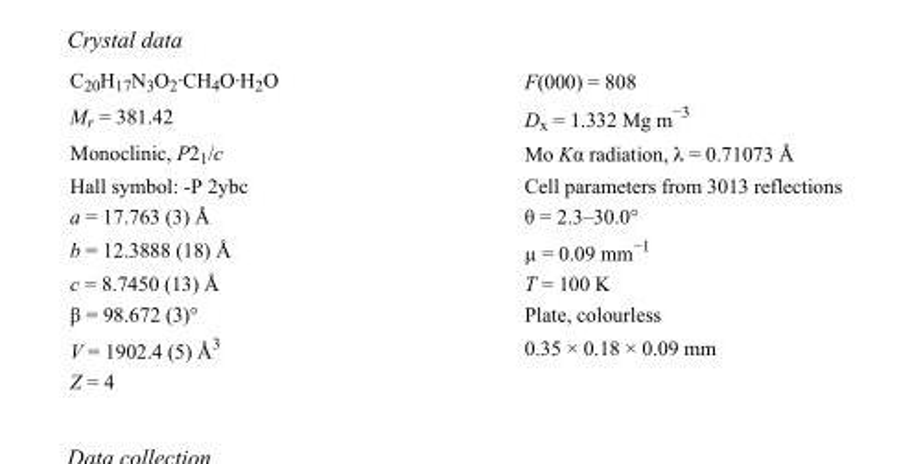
<table><tbody><tr><td>C<sub>20</sub>H<sub>17</sub>N<sub>3</sub>O<sub>2</sub>·CH<sub>4</sub>O·H<sub>2</sub>O</td><td>F(000) = 808</td></tr><tr><td>M<sub>r</sub> = 381.42</td><td>D<sub>x</sub> = 1.332 Mg m<sup>−3</sup></td></tr><tr><td>Monoclinic, P2<sub>1</sub>/c</td><td>Mo Kα radiation, λ = 0.71073 Å</td></tr><tr><td>Hall symbol: -P 2ybc</td><td>Cell parameters from 3013 reflections</td></tr><tr><td>a = 17.763 (3) Å</td><td>θ = 2.3–30.0°</td></tr><tr><td>b = 12.3888 (18) Å</td><td>µ = 0.09 mm<sup>−1</sup></td></tr><tr><td>c = 8.7450 (13) Å</td><td>T = 100 K</td></tr><tr><td>β = 98.672 (3)°</td><td>Plate, colourless</td></tr><tr><td>V = 1902.4 (5) Å<sup>3</sup></td><td>0.35 × 0.18 × 0.09 mm</td></tr><tr><td>Z = 4</td><td></td></tr></tbody></table>